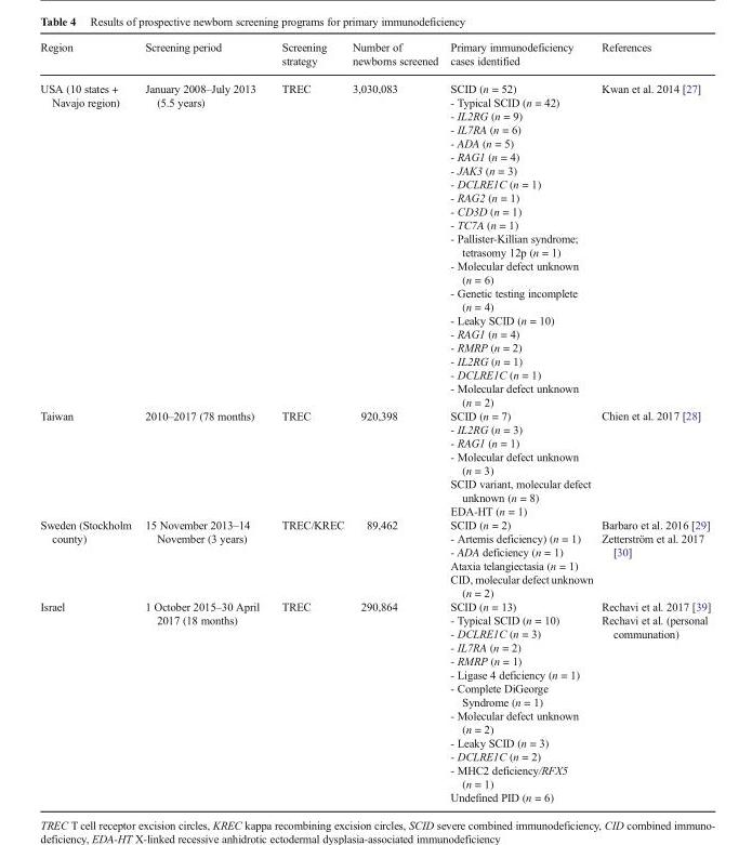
<table><thead><tr><td>Region</td><td>Screening period</td><td>Screening strategy</td><td>Number of newborns screened</td><td>Primary immunodeficiency cases identified</td><td>References</td></tr></thead><tbody><tr><td>USA (10 states + Navajo region)</td><td>January 2008–July 2013 (5.5 years)</td><td>TREC</td><td>3,030,083</td><td>SCID (n = 52) - Typical SCID (n = 42) - IL2RG (n = 9) - IL7RA (n = 6) - ADA (n = 5) - RAG1 (n = 4) - JAK3 (n = 3) - DCLRE1C (n = 1) - RAG2 (n = 1) - CD3D (n = 1) - TC7A (n = 1) - Pallister-Killian syndrome; tetrasomy 12p (n = 1) - Molecular defect unknown (n = 6) - Genetic testing incomplete (n = 4) - Leaky SCID (n = 10) - RAG1 (n = 4) - RMRP (n = 2) - IL2RG (n = 1) - DCLRE1C (n = 1) - Molecular defect unknown (n = 2)</td><td>Kwan et al. 2014 [27]</td></tr><tr><td>Taiwan</td><td>2010–2017 (78 months)</td><td>TREC</td><td>920,398</td><td>SCID (n = 7) - IL2RG (n = 3) - RAG1 (n = 1) - Molecular defect unknown (n = 3) SCID variant, molecular defect unknown (n = 8) EDA-HT (n = 1)</td><td>Chien et al. 2017 [28]</td></tr><tr><td>Sweden (Stockholm county)</td><td>15 November 2013–14 November (3 years)</td><td>TREC/KREC</td><td>89,462</td><td>SCID (n = 2) - Artemis deficiency) (n = 1) - ADA deficiency (n = 1) Ataxia telangiectasia (n = 1) CID, molecular defect unknown (n = 2)</td><td>Barbaro et al. 2016 [29] Zetterström et al. 2017 [30]</td></tr><tr><td>Israel</td><td>1 October 2015–30 April 2017 (18 months)</td><td>TREC</td><td>290,864</td><td>SCID (n = 13) - Typical SCID (n = 10) - DCLRE1C (n = 3) - IL7RA (n = 2) - RMRP (n = 1) - Ligase 4 deficiency (n = 1) - Complete DiGeorge Syndrome (n = 1) - Molecular defect unknown (n = 2) - Leaky SCID (n = 3) - DCLRE1C (n = 2) - MHC2 deficiency/RFX5 (n = 1) Undefined PID (n = 6)</td><td>Rechavi et al. 2017 [39] Rechavi et al. (personal communation)</td></tr></tbody></table>